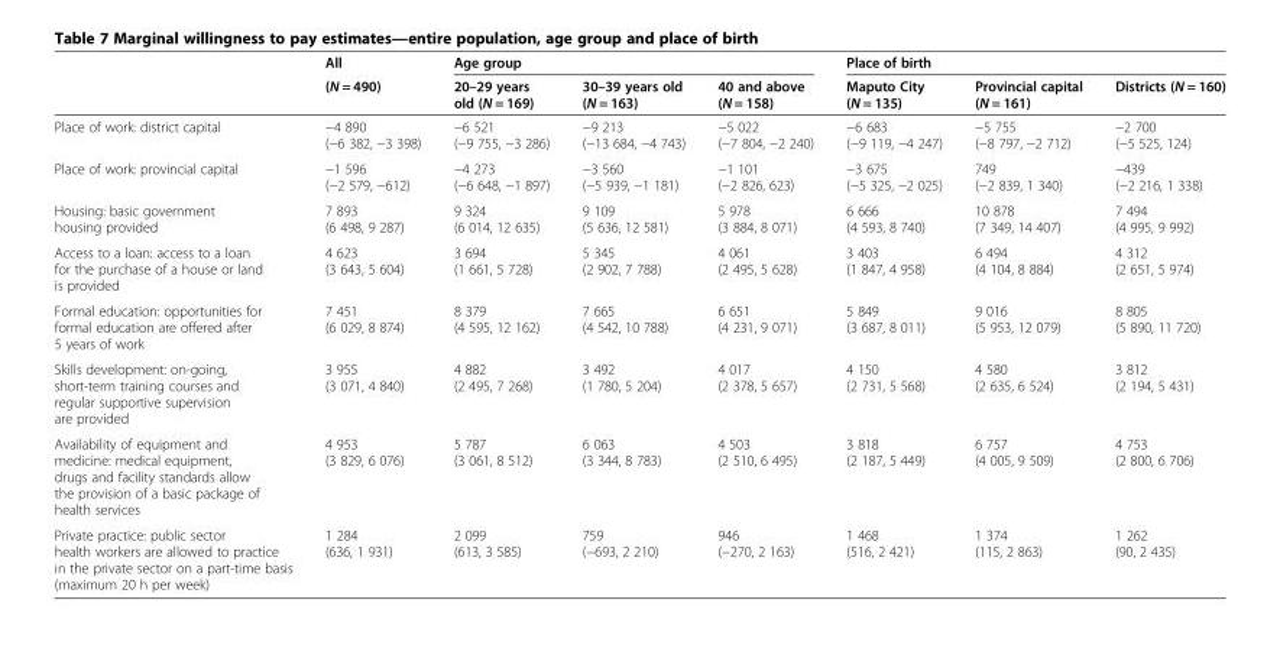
<table><thead><tr><td rowspan="2"></td><td rowspan="2">All (N = 490)</td><td colspan="3">Age group</td><td colspan="3">Place of birth</td></tr><tr><td>20–29 years old (N = 169)</td><td>30–39 years old (N = 163)</td><td>40 and above (N = 158)</td><td>Maputo City (N = 135)</td><td>Provincial capital (N = 161)</td><td>Districts (N = 160)</td></tr></thead><tbody><tr><td>Place of work: district capital</td><td>−4 890 (−6 382, −3 398)</td><td>−6 521 (−9 755, −3 286)</td><td>−9 213 (−13 684, −4 743)</td><td>−5 022 (−7 804, −2 240)</td><td>−6 683 (−9 119, −4 247)</td><td>−5 755 (−8 797, −2 712)</td><td>−2 700 (−5 525, 124)</td></tr><tr><td>Place of work: provincial capital</td><td>−1 596 (−2 579, −612)</td><td>−4 273 (−6 648, −1 897)</td><td>−3 560 (−5 939, −1 181)</td><td>−1 101 (−2 826, 623)</td><td>−3 675 (−5 325, −2 025)</td><td>749 (−2 839, 1 340)</td><td>−439 (−2 216, 1 338)</td></tr><tr><td>Housing: basic government housing provided</td><td>7 893 (6 498, 9 287)</td><td>9 324 (6 014, 12 635)</td><td>9 109 (5 636, 12 581)</td><td>5 978 (3 884, 8 071)</td><td>6 666 (4 593, 8 740)</td><td>10 878 (7 349, 14 407)</td><td>7 494 (4 995, 9 992)</td></tr><tr><td>Access to a loan: access to a loan for the purchase of a house or land is provided</td><td>4 623 (3 643, 5 604)</td><td>3 694 (1 661, 5 728)</td><td>5 345 (2 902, 7 788)</td><td>4 061 (2 495, 5 628)</td><td>3 403 (1 847, 4 958)</td><td>6 494 (4 104, 8 884)</td><td>4 312 (2 651, 5 974)</td></tr><tr><td>Formal education: opportunities for formal education are offered after 5 years of work</td><td>7 451 (6 029, 8 874)</td><td>8 379 (4 595, 12 162)</td><td>7 665 (4 542, 10 788)</td><td>6 651 (4 231, 9 071)</td><td>5 849 (3 687, 8 011)</td><td>9 016 (5 953, 12 079)</td><td>8 805 (5 890, 11 720)</td></tr><tr><td>Skills development: on-going, short-term training courses and regular supportive supervision are provided</td><td>3 955 (3 071, 4 840)</td><td>4 882 (2 495, 7 268)</td><td>3 492 (1 780, 5 204)</td><td>4 017 (2 378, 5 657)</td><td>4 150 (2 731, 5 568)</td><td>4 580 (2 635, 6 524)</td><td>3 812 (2 194, 5 431)</td></tr><tr><td>Availability of equipment and medicine: medical equipment, drugs and facility standards allow the provision of a basic package of health services</td><td>4 953 (3 829, 6 076)</td><td>5 787 (3 061, 8 512)</td><td>6 063 (3 344, 8 783)</td><td>4 503 (2 510, 6 495)</td><td>3 818 (2 187, 5 449)</td><td>6 757 (4 005, 9 509)</td><td>4 753 (2 800, 6 706)</td></tr><tr><td>Private practice: public sector health workers are allowed to practice in the private sector on a part-time basis (maximum 20 h per week)</td><td>1 284 (636, 1 931)</td><td>2 099 (613, 3 585)</td><td>759 (−693, 2 210)</td><td>946 (−270, 2 163)</td><td>1 468 (516, 2 421)</td><td>1 374 (115, 2 863)</td><td>1 262 (90, 2 435)</td></tr></tbody></table>